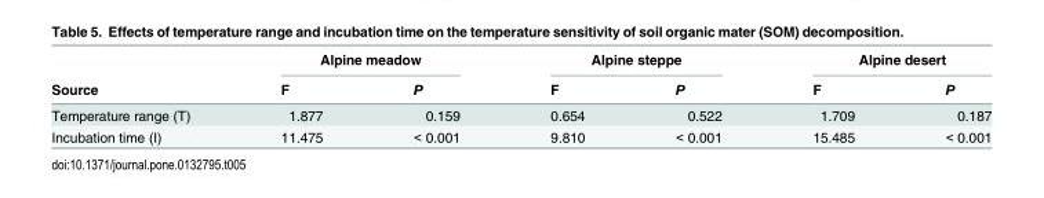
<table><thead><tr><td rowspan="2">Source</td><td colspan="2">Alpine meadow</td><td colspan="2">Alpine steppe</td><td colspan="2">Alpine desert</td></tr><tr><td>F</td><td>P</td><td>F</td><td>P</td><td>F</td><td>P</td></tr></thead><tbody><tr><td>Temperature range (T)</td><td>1.877</td><td>0.159</td><td>0.654</td><td>0.522</td><td>1.709</td><td>0.187</td></tr><tr><td>Incubation time (I)</td><td>11.475</td><td>&lt; 0.001</td><td>9.810</td><td>&lt; 0.001</td><td>15.485</td><td>&lt; 0.001</td></tr></tbody></table>